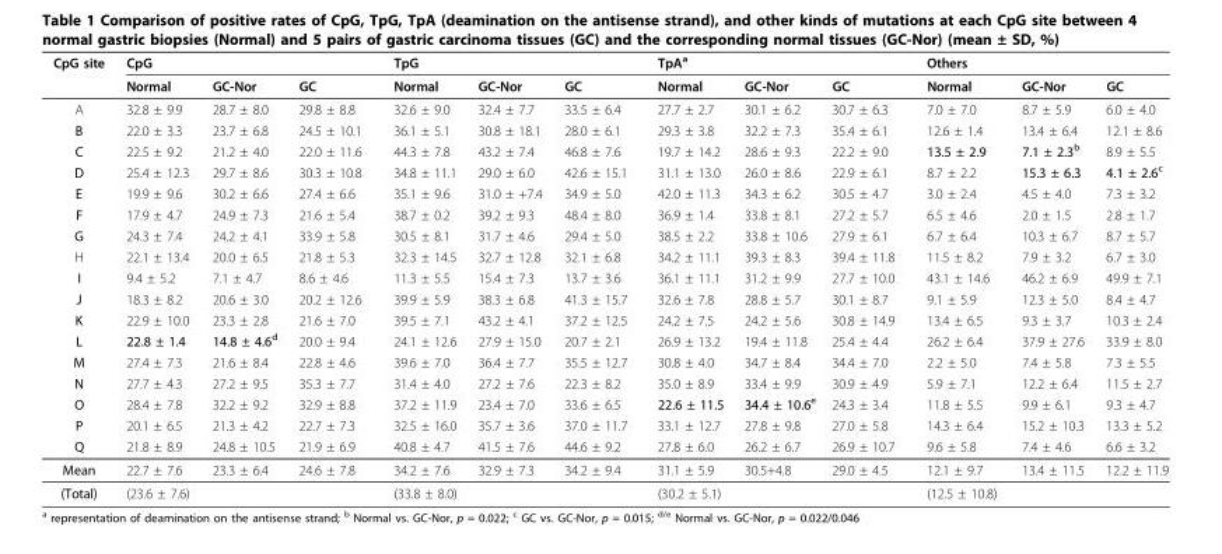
<table><thead><tr><td rowspan="2">CpG site</td><td rowspan="2">CpG Normal</td><td rowspan="2">GC-Nor</td><td rowspan="2">GC</td><td rowspan="2">TpG Normal</td><td rowspan="2">GC-Nor</td><td rowspan="2">GC</td><td rowspan="2">TpA<sup>a</sup> Normal</td><td rowspan="2">GC-Nor</td><td rowspan="2">GC</td><td rowspan="2">Others Normal</td><td rowspan="2">GC-Nor</td><td rowspan="2">GC</td></tr><tr></tr></thead><tbody><tr><td>A</td><td>32.8 ± 9.9</td><td>28.7 ± 8.0</td><td>29.8 ± 8.8</td><td>32.6 ± 9.0</td><td>32.4 ± 7.7</td><td>33.5 ± 6.4</td><td>27.7 ± 2.7</td><td>30.1 ± 6.2</td><td>30.7 ± 6.3</td><td>7.0 ± 7.0</td><td>8.7 ± 5.9</td><td>6.0 ± 4.0</td></tr><tr><td>B</td><td>22.0 ± 3.3</td><td>23.7 ± 6.8</td><td>24.5 ± 10.1</td><td>36.1 ± 5.1</td><td>30.8 ± 18.1</td><td>28.0 ± 6.1</td><td>29.3 ± 3.8</td><td>32.2 ± 7.3</td><td>35.4 ± 6.1</td><td>12.6 ± 1.4</td><td>13.4 ± 6.4</td><td>12.1 ± 8.6</td></tr><tr><td>C</td><td>22.5 ± 9.2</td><td>21.2 ± 4.0</td><td>22.0 ± 11.6</td><td>44.3 ± 7.8</td><td>43.2 ± 7.4</td><td>46.8 ± 7.6</td><td>19.7 ± 14.2</td><td>28.6 ± 9.3</td><td>22.2 ± 9.0</td><td>13.5 ± 2.9</td><td>7.1 ± 2.3<sup>b</sup></td><td>8.9 ± 5.5</td></tr><tr><td>D</td><td>25.4 ± 12.3</td><td>29.7 ± 8.6</td><td>30.3 ± 10.8</td><td>34.8 ± 11.1</td><td>29.0 ± 6.0</td><td>42.6 ± 15.1</td><td>31.1 ± 13.0</td><td>26.0 ± 8.6</td><td>22.9 ± 6.1</td><td>8.7 ± 2.2</td><td>15.3 ± 6.3</td><td>4.1 ± 2.6<sup>c</sup></td></tr><tr><td>E</td><td>19.9 ± 9.6</td><td>30.2 ± 6.6</td><td>27.4 ± 6.6</td><td>35.1 ± 9.6</td><td>31.0 ± +7.4</td><td>34.9 ± 5.0</td><td>42.0 ± 11.3</td><td>34.3 ± 6.2</td><td>30.5 ± 4.7</td><td>3.0 ± 2.4</td><td>4.5 ± 4.0</td><td>7.3 ± 3.2</td></tr><tr><td>F</td><td>17.9 ± 4.7</td><td>24.9 ± 7.3</td><td>21.6 ± 5.4</td><td>38.7 ± 0.2</td><td>39.2 ± 9.3</td><td>48.4 ± 8.0</td><td>36.9 ± 1.4</td><td>33.8 ± 8.1</td><td>27.2 ± 5.7</td><td>6.5 ± 4.6</td><td>2.0 ± 1.5</td><td>2.8 ± 1.7</td></tr><tr><td>G</td><td>24.3 ± 7.4</td><td>24.2 ± 4.1</td><td>33.9 ± 5.8</td><td>30.5 ± 8.1</td><td>31.7 ± 4.6</td><td>29.4 ± 5.0</td><td>38.5 ± 2.2</td><td>33.8 ± 10.6</td><td>27.9 ± 6.1</td><td>6.7 ± 6.4</td><td>10.3 ± 6.7</td><td>8.7 ± 5.7</td></tr><tr><td>H</td><td>22.1 ± 13.4</td><td>20.0 ± 6.5</td><td>21.8 ± 5.3</td><td>32.3 ± 14.5</td><td>32.7 ± 12.8</td><td>32.1 ± 6.8</td><td>34.2 ± 11.1</td><td>39.3 ± 8.3</td><td>39.4 ± 11.8</td><td>11.5 ± 8.2</td><td>7.9 ± 3.2</td><td>6.7 ± 3.0</td></tr><tr><td>I</td><td>9.4 ± 5.2</td><td>7.1 ± 4.7</td><td>8.6 ± 4.6</td><td>11.3 ± 5.5</td><td>15.4 ± 7.3</td><td>13.7 ± 3.6</td><td>36.1 ± 11.1</td><td>31.2 ± 9.9</td><td>27.7 ± 10.0</td><td>43.1 ± 14.6</td><td>46.2 ± 6.9</td><td>49.9 ± 7.1</td></tr><tr><td>J</td><td>18.3 ± 8.2</td><td>20.6 ± 3.0</td><td>20.2 ± 12.6</td><td>39.9 ± 5.9</td><td>38.3 ± 6.8</td><td>41.3 ± 15.7</td><td>32.6 ± 7.8</td><td>28.8 ± 5.7</td><td>30.1 ± 8.7</td><td>9.1 ± 5.9</td><td>12.3 ± 5.0</td><td>8.4 ± 4.7</td></tr><tr><td>K</td><td>22.9 ± 10.0</td><td>23.3 ± 2.8</td><td>21.6 ± 7.0</td><td>39.5 ± 7.1</td><td>43.2 ± 4.1</td><td>37.2 ± 12.5</td><td>24.2 ± 7.5</td><td>24.2 ± 5.6</td><td>30.8 ± 14.9</td><td>13.4 ± 6.5</td><td>9.3 ± 3.7</td><td>10.3 ± 2.4</td></tr><tr><td>L</td><td>22.8 ± 1.4</td><td>14.8 ± 4.6<sup>d</sup></td><td>20.0 ± 9.4</td><td>24.1 ± 12.6</td><td>27.9 ± 15.0</td><td>20.7 ± 2.1</td><td>26.9 ± 13.2</td><td>19.4 ± 11.8</td><td>25.4 ± 4.4</td><td>26.2 ± 6.4</td><td>37.9 ± 27.6</td><td>33.9 ± 8.0</td></tr><tr><td>M</td><td>27.4 ± 7.3</td><td>21.6 ± 8.4</td><td>22.8 ± 4.6</td><td>39.6 ± 7.0</td><td>36.4 ± 7.7</td><td>35.5 ± 12.7</td><td>30.8 ± 4.0</td><td>34.7 ± 8.4</td><td>34.4 ± 7.0</td><td>2.2 ± 5.0</td><td>7.4 ± 5.8</td><td>7.3 ± 5.5</td></tr><tr><td>N</td><td>27.7 ± 4.3</td><td>27.2 ± 9.5</td><td>35.3 ± 7.7</td><td>31.4 ± 4.0</td><td>27.2 ± 7.6</td><td>22.3 ± 8.2</td><td>35.0 ± 8.9</td><td>33.4 ± 9.9</td><td>30.9 ± 4.9</td><td>5.9 ± 7.1</td><td>12.2 ± 6.4</td><td>11.5 ± 2.7</td></tr><tr><td>O</td><td>28.4 ± 7.8</td><td>32.2 ± 9.2</td><td>32.9 ± 8.8</td><td>37.2 ± 11.9</td><td>23.4 ± 7.0</td><td>33.6 ± 6.5</td><td>22.6 ± 11.5</td><td>34.4 ± 10.6<sup>e</sup></td><td>24.3 ± 3.4</td><td>11.8 ± 5.5</td><td>9.9 ± 6.1</td><td>9.3 ± 4.7</td></tr><tr><td>P</td><td>20.1 ± 6.5</td><td>21.3 ± 4.2</td><td>22.7 ± 7.3</td><td>32.5 ± 16.0</td><td>35.7 ± 3.6</td><td>37.0 ± 11.7</td><td>33.1 ± 12.7</td><td>27.8 ± 9.8</td><td>27.0 ± 5.8</td><td>14.3 ± 6.4</td><td>15.2 ± 10.3</td><td>13.3 ± 5.2</td></tr><tr><td>Q</td><td>21.8 ± 8.9</td><td>24.8 ± 10.5</td><td>21.9 ± 6.9</td><td>40.8 ± 4.7</td><td>41.5 ± 7.6</td><td>44.6 ± 9.2</td><td>27.8 ± 6.0</td><td>26.2 ± 6.7</td><td>26.9 ± 10.7</td><td>9.6 ± 5.8</td><td>7.4 ± 4.6</td><td>6.6 ± 3.2</td></tr><tr><td>Mean</td><td>22.7 ± 7.6</td><td>23.3 ± 6.4</td><td>24.6 ± 7.8</td><td>34.2 ± 7.6</td><td>32.9 ± 7.3</td><td>34.2 ± 9.4</td><td>31.1 ± 5.9</td><td>30.5+4.8</td><td>29.0 ± 4.5</td><td>12.1 ± 9.7</td><td>13.4 ± 11.5</td><td>12.2 ± 11.9</td></tr><tr><td>(Total)</td><td>(23.6 ± 7.6)</td><td></td><td></td><td>(33.8 ± 8.0)</td><td></td><td></td><td>(30.2 ± 5.1)</td><td></td><td></td><td>(12.5 ± 10.8)</td><td></td><td></td></tr></tbody></table>